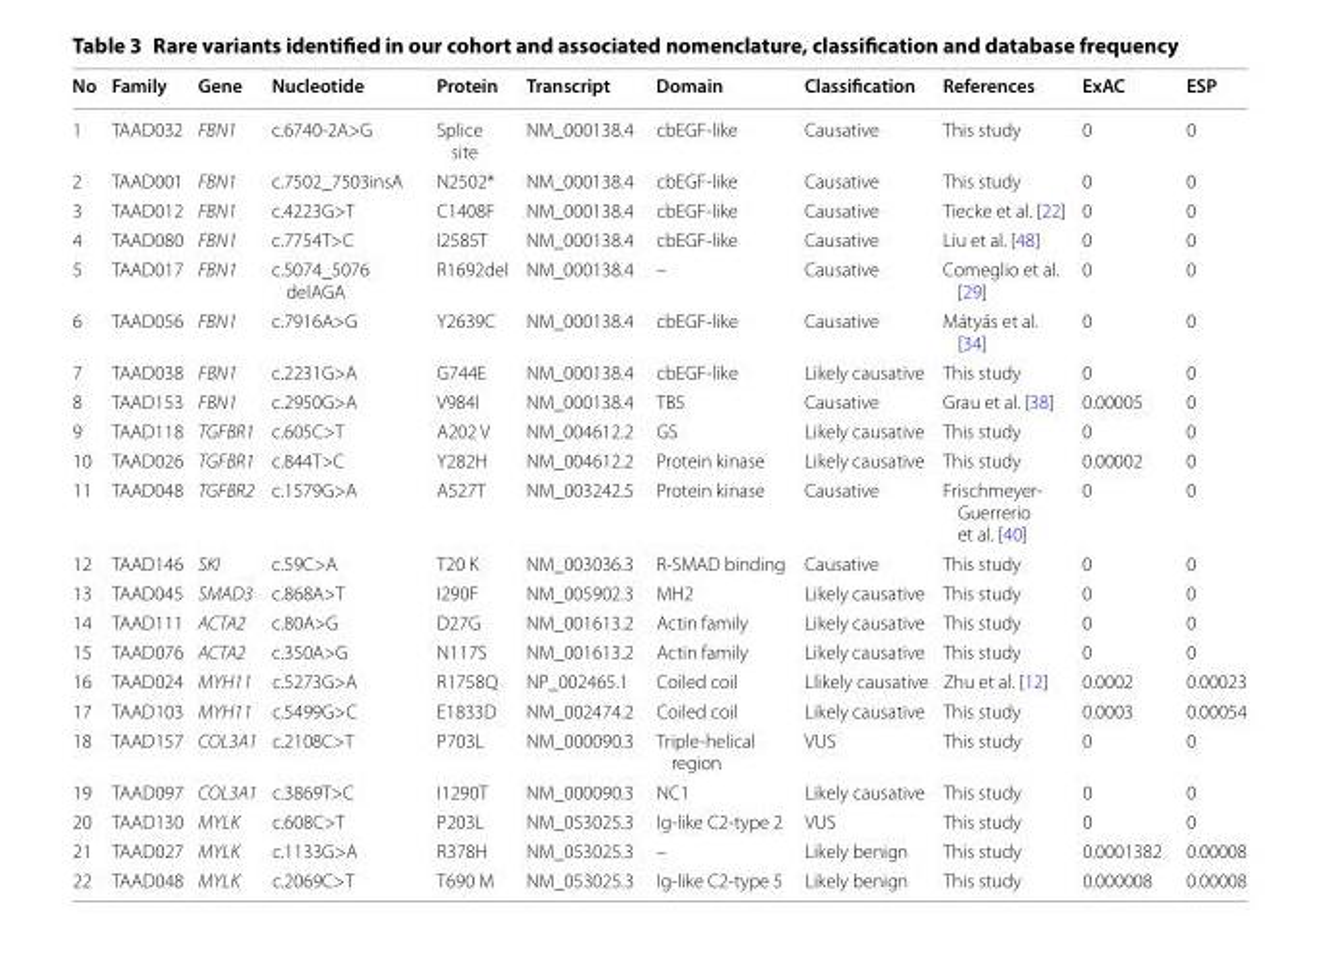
<table><thead><tr><td>No</td><td>Family</td><td>Gene</td><td>Nucleotide</td><td>Protein</td><td>Transcript</td><td>Domain</td><td>Classification</td><td>References</td><td>ExAC</td><td>ESP</td></tr></thead><tbody><tr><td>1</td><td>TAAD032</td><td>FBN1</td><td>c.6740‑2A&gt;G</td><td>Splice site</td><td>NM_000138.4</td><td>cbEGF‑like</td><td>Causative</td><td>This study</td><td>0</td><td>0</td></tr><tr><td>2</td><td>TAAD001</td><td>FBN1</td><td>c.7502_7503insA</td><td>N2502*</td><td>NM_000138.4</td><td>cbEGF‑like</td><td>Causative</td><td>This study</td><td>0</td><td>0</td></tr><tr><td>3</td><td>TAAD012</td><td>FBN1</td><td>c.4223G&gt;T</td><td>C1408F</td><td>NM_000138.4</td><td>cbEGF‑like</td><td>Causative</td><td>Tiecke et al. [22]</td><td>0</td><td>0</td></tr><tr><td>4</td><td>TAAD080</td><td>FBN1</td><td>c.7754T&gt;C</td><td>I2585T</td><td>NM_000138.4</td><td>cbEGF‑like</td><td>Causative</td><td>Liu et al. [48]</td><td>0</td><td>0</td></tr><tr><td>5</td><td>TAAD017</td><td>FBN1</td><td>c.5074_5076 delAGA</td><td>R1692del</td><td>NM_000138.4</td><td>–</td><td>Causative</td><td>Comeglio et al. [29]</td><td>0</td><td>0</td></tr><tr><td>6</td><td>TAAD056</td><td>FBN1</td><td>c.7916A&gt;G</td><td>Y2639C</td><td>NM_000138.4</td><td>cbEGF‑like</td><td>Causative</td><td>Mátyás et al. [34]</td><td>0</td><td>0</td></tr><tr><td>7</td><td>TAAD038</td><td>FBN1</td><td>c.2231G&gt;A</td><td>G744E</td><td>NM_000138.4</td><td>cbEGF‑like</td><td>Likely causative</td><td>This study</td><td>0</td><td>0</td></tr><tr><td>8</td><td>TAAD153</td><td>FBN1</td><td>c.2950G&gt;A</td><td>V984I</td><td>NM_000138.4</td><td>TB5</td><td>Causative</td><td>Grau et al. [38]</td><td>0.00005</td><td>0</td></tr><tr><td>9</td><td>TAAD118</td><td>TGFBR1</td><td>c.605C&gt;T</td><td>A202 V</td><td>NM_004612.2</td><td>GS</td><td>Likely causative</td><td>This study</td><td>0</td><td>0</td></tr><tr><td>10</td><td>TAAD026</td><td>TGFBR1</td><td>c.844T&gt;C</td><td>Y282H</td><td>NM_004612.2</td><td>Protein kinase</td><td>Likely causative</td><td>This study</td><td>0.00002</td><td>0</td></tr><tr><td>11</td><td>TAAD048</td><td>TGFBR2</td><td>c.1579G&gt;A</td><td>A527T</td><td>NM_003242.5</td><td>Protein kinase</td><td>Causative</td><td>Frischmeyer‑ Guerrerio et al. [40]</td><td>0</td><td>0</td></tr><tr><td>12</td><td>TAAD146</td><td>SKI</td><td>c.59C&gt;A</td><td>T20 K</td><td>NM_003036.3</td><td>R‑SMAD binding</td><td>Causative</td><td>This study</td><td>0</td><td>0</td></tr><tr><td>13</td><td>TAAD045</td><td>SMAD3</td><td>c.868A&gt;T</td><td>I290F</td><td>NM_005902.3</td><td>MH2</td><td>Likely causative</td><td>This study</td><td>0</td><td>0</td></tr><tr><td>14</td><td>TAAD111</td><td>ACTA2</td><td>c.80A&gt;G</td><td>D27G</td><td>NM_001613.2</td><td>Actin family</td><td>Likely causative</td><td>This study</td><td>0</td><td>0</td></tr><tr><td>15</td><td>TAAD076</td><td>ACTA2</td><td>c.350A&gt;G</td><td>N117S</td><td>NM_001613.2</td><td>Actin family</td><td>Likely causative</td><td>This study</td><td>0</td><td>0</td></tr><tr><td>16</td><td>TAAD024</td><td>MYH11</td><td>c.5273G&gt;A</td><td>R1758Q</td><td>NP_002465.1</td><td>Coiled coil</td><td>Llikely causative</td><td>Zhu et al. [12]</td><td>0.0002</td><td>0.00023</td></tr><tr><td>17</td><td>TAAD103</td><td>MYH11</td><td>c.5499G&gt;C</td><td>E1833D</td><td>NM_002474.2</td><td>Coiled coil</td><td>Likely causative</td><td>This study</td><td>0.0003</td><td>0.00054</td></tr><tr><td>18</td><td>TAAD157</td><td>COL3A1</td><td>c.2108C&gt;T</td><td>P703L</td><td>NM_000090.3</td><td>Triple‑helical region</td><td>VUS</td><td>This study</td><td>0</td><td>0</td></tr><tr><td>19</td><td>TAAD097</td><td>COL3A1</td><td>c.3869T&gt;C</td><td>I1290T</td><td>NM_000090.3</td><td>NC1</td><td>Likely causative</td><td>This study</td><td>0</td><td>0</td></tr><tr><td>20</td><td>TAAD130</td><td>MYLK</td><td>c.608C&gt;T</td><td>P203L</td><td>NM_053025.3</td><td>Ig‑like C2‑type 2</td><td>VUS</td><td>This study</td><td>0</td><td>0</td></tr><tr><td>21</td><td>TAAD027</td><td>MYLK</td><td>c.1133G&gt;A</td><td>R378H</td><td>NM_053025.3</td><td>–</td><td>Likely benign</td><td>This study</td><td>0.0001382</td><td>0.00008</td></tr><tr><td>22</td><td>TAAD048</td><td>MYLK</td><td>c.2069C&gt;T</td><td>T690 M</td><td>NM_053025.3</td><td>Ig‑like C2‑type 5</td><td>Likely benign</td><td>This study</td><td>0.000008</td><td>0.00008</td></tr></tbody></table>